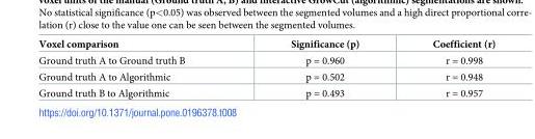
<table><thead><tr><td>Voxel comparison</td><td>Significance (p)</td><td>Coefficient (r)</td></tr></thead><tbody><tr><td>Ground truth A to Ground truth B</td><td>p = 0.960</td><td>r = 0.998</td></tr><tr><td>Ground truth A to Algorithmic</td><td>p = 0.502</td><td>r = 0.948</td></tr><tr><td>Ground truth B to Algorithmic</td><td>p = 0.493</td><td>r = 0.957</td></tr></tbody></table>